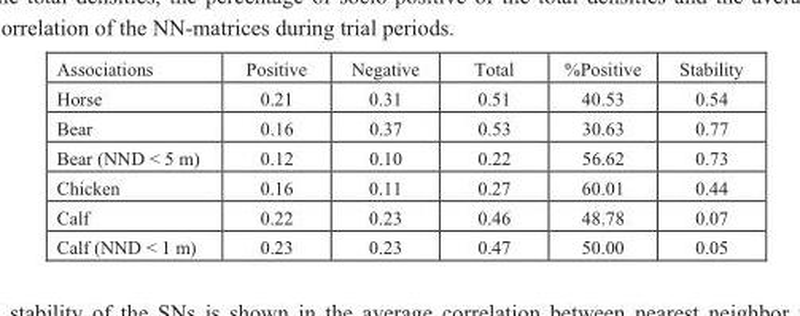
<table><tbody><tr><td>Associations</td><td>Positive</td><td>Negative</td><td>Total</td><td>%Positive</td><td>Stability</td></tr><tr><td>Horse</td><td>0.21</td><td>0.31</td><td>0.51</td><td>40.53</td><td>0.54</td></tr><tr><td>Bear</td><td>0.16</td><td>0.37</td><td>0.53</td><td>30.63</td><td>0.77</td></tr><tr><td>Bear (NND &lt; 5 m)</td><td>0.12</td><td>0.10</td><td>0.22</td><td>56.62</td><td>0.73</td></tr><tr><td>Chicken</td><td>0.16</td><td>0.11</td><td>0.27</td><td>60.01</td><td>0.44</td></tr><tr><td>Calf</td><td>0.22</td><td>0.23</td><td>0.46</td><td>48.78</td><td>0.07</td></tr><tr><td>Calf (NND &lt; 1 m)</td><td>0.23</td><td>0.23</td><td>0.47</td><td>50.00</td><td>0.05</td></tr></tbody></table>